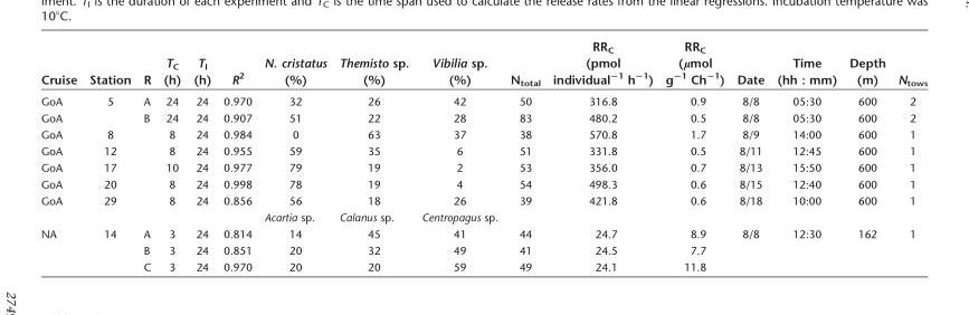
<table><thead><tr><td>Cruise</td><td>Station</td><td>R</td><td>T<sub>C</sub> (h)</td><td>T<sub>I</sub> (h)</td><td>R<sup>2</sup></td><td>N. cristatus (%)</td><td>Themisto sp. (%)</td><td>Vibilia sp. (%)</td><td>N<sub>total</sub></td><td>RR<sub>C</sub> (pmol individual<sup>−1</sup> h<sup>−1</sup>)</td><td>RR<sub>C</sub> (μmol g<sup>−1</sup> Ch<sup>−1</sup>)</td><td>Date</td><td>Time (hh : mm)</td><td>Depth (m)</td><td>N<sub>tows</sub></td></tr></thead><tbody><tr><td>GoA</td><td>5</td><td>A</td><td>24</td><td>24</td><td>0.970</td><td>32</td><td>26</td><td>42</td><td>50</td><td>316.8</td><td>0.9</td><td>8/8</td><td>05:30</td><td>600</td><td>2</td></tr><tr><td>GoA</td><td></td><td>B</td><td>24</td><td>24</td><td>0.907</td><td>51</td><td>22</td><td>28</td><td>83</td><td>480.2</td><td>0.5</td><td>8/8</td><td>05:30</td><td>600</td><td>2</td></tr><tr><td>GoA</td><td>8</td><td></td><td>8</td><td>24</td><td>0.984</td><td>0</td><td>63</td><td>37</td><td>38</td><td>570.8</td><td>1.7</td><td>8/9</td><td>14:00</td><td>600</td><td>1</td></tr><tr><td>GoA</td><td>12</td><td></td><td>8</td><td>24</td><td>0.955</td><td>59</td><td>35</td><td>6</td><td>51</td><td>331.8</td><td>0.5</td><td>8/11</td><td>12:45</td><td>600</td><td>1</td></tr><tr><td>GoA</td><td>17</td><td></td><td>10</td><td>24</td><td>0.977</td><td>79</td><td>19</td><td>2</td><td>53</td><td>356.0</td><td>0.7</td><td>8/13</td><td>15:50</td><td>600</td><td>1</td></tr><tr><td>GoA</td><td>20</td><td></td><td>8</td><td>24</td><td>0.998</td><td>78</td><td>19</td><td>4</td><td>54</td><td>498.3</td><td>0.6</td><td>8/15</td><td>12:40</td><td>600</td><td>1</td></tr><tr><td rowspan="2">GoA</td><td>29</td><td></td><td>8</td><td>24</td><td>0.856</td><td>56</td><td>18</td><td>26</td><td>39</td><td>421.8</td><td>0.6</td><td>8/18</td><td>10:00</td><td>600</td><td>1</td></tr><tr><td></td><td></td><td></td><td></td><td></td><td>Acartia sp.</td><td>Calanus sp.</td><td>Centropagus sp.</td><td></td><td></td><td></td><td></td><td></td><td></td><td></td></tr><tr><td rowspan="3">NA</td><td>14</td><td>A</td><td>3</td><td>24</td><td>0.814</td><td>14</td><td>45</td><td>41</td><td>44</td><td>24.7</td><td>8.9</td><td>8/8</td><td>12:30</td><td>162</td><td>1</td></tr><tr><td></td><td>B</td><td>3</td><td>24</td><td>0.851</td><td>20</td><td>32</td><td>49</td><td>41</td><td>24.5</td><td>7.7</td><td></td><td></td><td></td><td></td></tr><tr><td></td><td>C</td><td>3</td><td>24</td><td>0.970</td><td>20</td><td>20</td><td>59</td><td>49</td><td>24.1</td><td>11.8</td><td></td><td></td><td></td><td></td></tr></tbody></table>